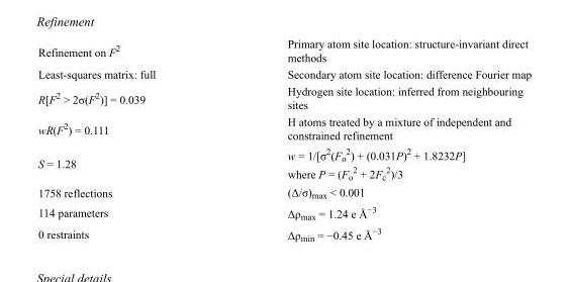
<table><tbody><tr><td>Refinement on F<sup>2</sup></td><td>Primary atom site location: structure-invariant direct methods</td></tr><tr><td>Least-squares matrix: full</td><td>Secondary atom site location: difference Fourier map</td></tr><tr><td>R[F<sup>2</sup> &gt; 2σ(F<sup>2</sup>)] = 0.039</td><td>Hydrogen site location: inferred from neighbouring sites</td></tr><tr><td>wR(F<sup>2</sup>) = 0.111</td><td>H atoms treated by a mixture of independent and constrained refinement</td></tr><tr><td>S = 1.28</td><td>w = 1/[σ<sup>2</sup>(F<sub>o</sub> <sup>2</sup>) + (0.031P)<sup>2</sup> + 1.8232P] where P = (F<sub>o</sub> <sup>2</sup> + 2F<sub>c</sub> <sup>2</sup>)/3</td></tr><tr><td>1758 reflections</td><td>(Δ/σ)<sub>max</sub> &lt; 0.001</td></tr><tr><td>114 parameters</td><td>Δρ<sub>max</sub> = 1.24 e Å<sup>−3</sup></td></tr><tr><td>0 restraints</td><td>Δρ<sub>min</sub> = −0.45 e Å<sup>−3</sup></td></tr></tbody></table>